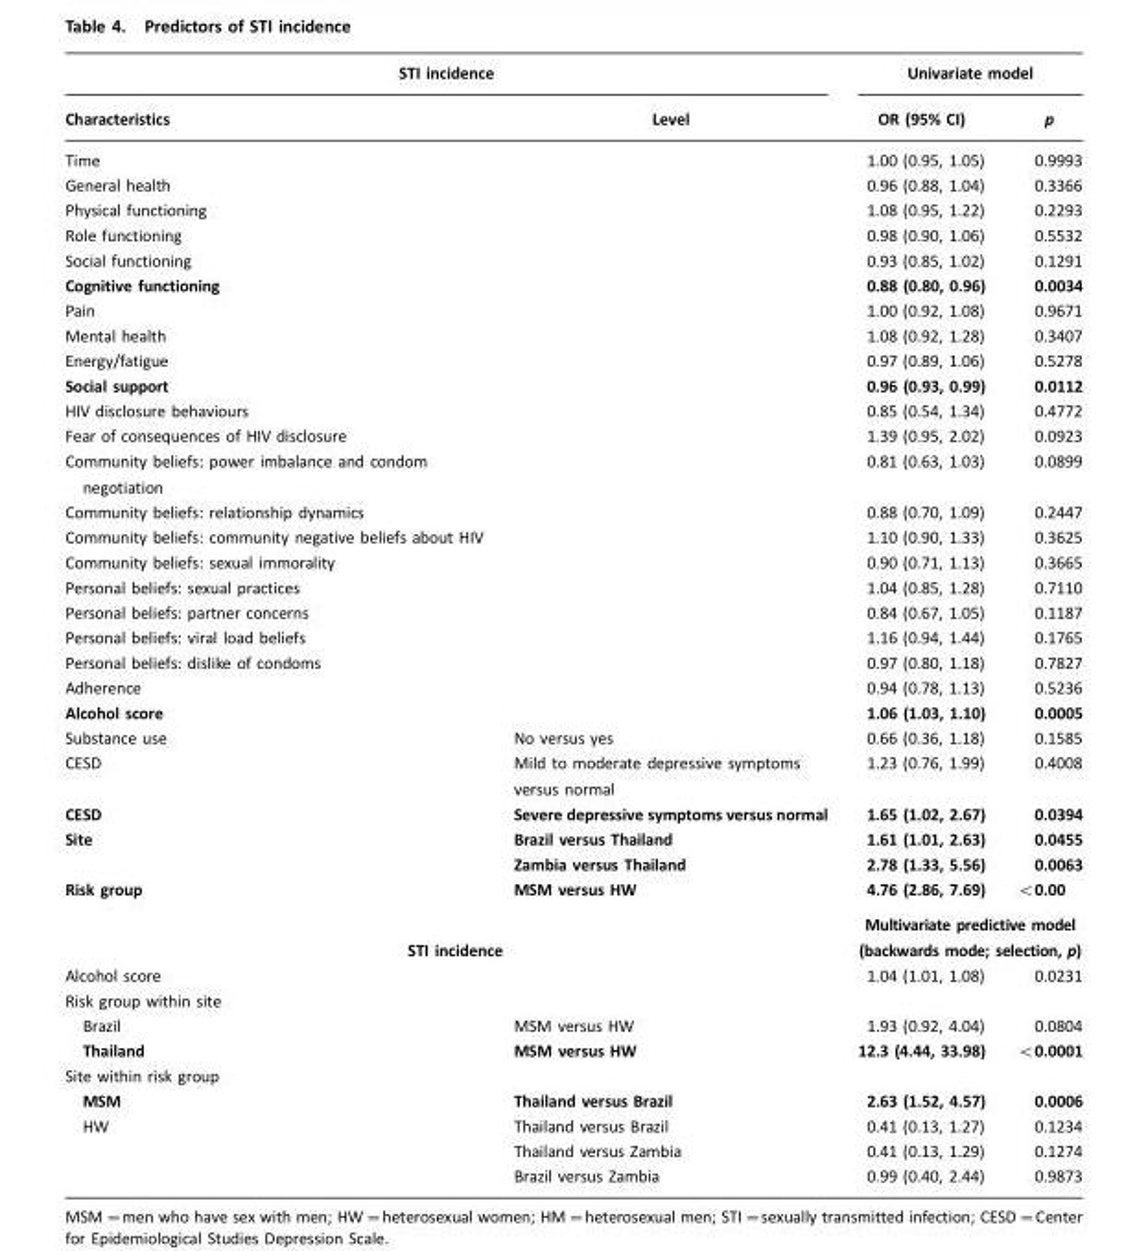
<table><thead><tr><td colspan="2">STI incidence</td><td colspan="2">Univariate model</td></tr><tr><td>Characteristics</td><td>Level</td><td>OR (95% CI)</td><td>p</td></tr></thead><tbody><tr><td>Time</td><td></td><td>1.00 (0.95, 1.05)</td><td>0.9993</td></tr><tr><td>General health</td><td></td><td>0.96 (0.88, 1.04)</td><td>0.3366</td></tr><tr><td>Physical functioning</td><td></td><td>1.08 (0.95, 1.22)</td><td>0.2293</td></tr><tr><td>Role functioning</td><td></td><td>0.98 (0.90, 1.06)</td><td>0.5532</td></tr><tr><td>Social functioning</td><td></td><td>0.93 (0.85, 1.02)</td><td>0.1291</td></tr><tr><td>Cognitive functioning</td><td></td><td>0.88 (0.80, 0.96)</td><td>0.0034</td></tr><tr><td>Pain</td><td></td><td>1.00 (0.92, 1.08)</td><td>0.9671</td></tr><tr><td>Mental health</td><td></td><td>1.08 (0.92, 1.28)</td><td>0.3407</td></tr><tr><td>Energy/fatigue</td><td></td><td>0.97 (0.89, 1.06)</td><td>0.5278</td></tr><tr><td>Social support</td><td></td><td>0.96 (0.93, 0.99)</td><td>0.0112</td></tr><tr><td>HIV disclosure behaviours</td><td></td><td>0.85 (0.54, 1.34)</td><td>0.4772</td></tr><tr><td>Fear of consequences of HIV disclosure</td><td></td><td>1.39 (0.95, 2.02)</td><td>0.0923</td></tr><tr><td>Community beliefs: power imbalance and condom negotiation</td><td></td><td>0.81 (0.63, 1.03)</td><td>0.0899</td></tr><tr><td>Community beliefs: relationship dynamics</td><td></td><td>0.88 (0.70, 1.09)</td><td>0.2447</td></tr><tr><td>Community beliefs: community negative beliefs about HIV</td><td></td><td>1.10 (0.90, 1.33)</td><td>0.3625</td></tr><tr><td>Community beliefs: sexual immorality</td><td></td><td>0.90 (0.71, 1.13)</td><td>0.3665</td></tr><tr><td>Personal beliefs: sexual practices</td><td></td><td>1.04 (0.85, 1.28)</td><td>0.7110</td></tr><tr><td>Personal beliefs: partner concerns</td><td></td><td>0.84 (0.67, 1.05)</td><td>0.1187</td></tr><tr><td>Personal beliefs: viral load beliefs</td><td></td><td>1.16 (0.94, 1.44)</td><td>0.1765</td></tr><tr><td>Personal beliefs: dislike of condoms</td><td></td><td>0.97 (0.80, 1.18)</td><td>0.7827</td></tr><tr><td>Adherence</td><td></td><td>0.94 (0.78, 1.13)</td><td>0.5236</td></tr><tr><td>Alcohol score</td><td></td><td>1.06 (1.03, 1.10)</td><td>0.0005</td></tr><tr><td>Substance use</td><td>No versus yes</td><td>0.66 (0.36, 1.18)</td><td>0.1585</td></tr><tr><td>CESD</td><td>Mild to moderate depressive symptoms versus normal</td><td>1.23 (0.76, 1.99)</td><td>0.4008</td></tr><tr><td>CESD</td><td>Severe depressive symptoms versus normal</td><td>1.65 (1.02, 2.67)</td><td>0.0394</td></tr><tr><td rowspan="2">Site</td><td>Brazil versus Thailand</td><td>1.61 (1.01, 2.63)</td><td>0.0455</td></tr><tr><td>Zambia versus Thailand</td><td>2.78 (1.33, 5.56)</td><td>0.0063</td></tr><tr><td>Risk group</td><td>MSM versus HW</td><td>4.76 (2.86, 7.69)</td><td>&lt;0.00</td></tr><tr><td colspan="2">STI incidence</td><td colspan="2">Multivariate predictive model (backwards mode; selection, p)</td></tr><tr><td>Alcohol score</td><td></td><td>1.04 (1.01, 1.08)</td><td>0.0231</td></tr><tr><td colspan="4">Risk group within site</td></tr><tr><td>Brazil</td><td>MSM versus HW</td><td>1.93 (0.92, 4.04)</td><td>0.0804</td></tr><tr><td>Thailand</td><td>MSM versus HW</td><td>12.3 (4.44, 33.98)</td><td>&lt;0.0001</td></tr><tr><td colspan="4">Site within risk group</td></tr><tr><td>MSM</td><td>Thailand versus Brazil</td><td>2.63 (1.52, 4.57)</td><td>0.0006</td></tr><tr><td rowspan="3">HW</td><td>Thailand versus Brazil</td><td>0.41 (0.13, 1.27)</td><td>0.1234</td></tr><tr><td>Thailand versus Zambia</td><td>0.41 (0.13, 1.29)</td><td>0.1274</td></tr><tr><td>Brazil versus Zambia</td><td>0.99 (0.40, 2.44)</td><td>0.9873</td></tr></tbody></table>